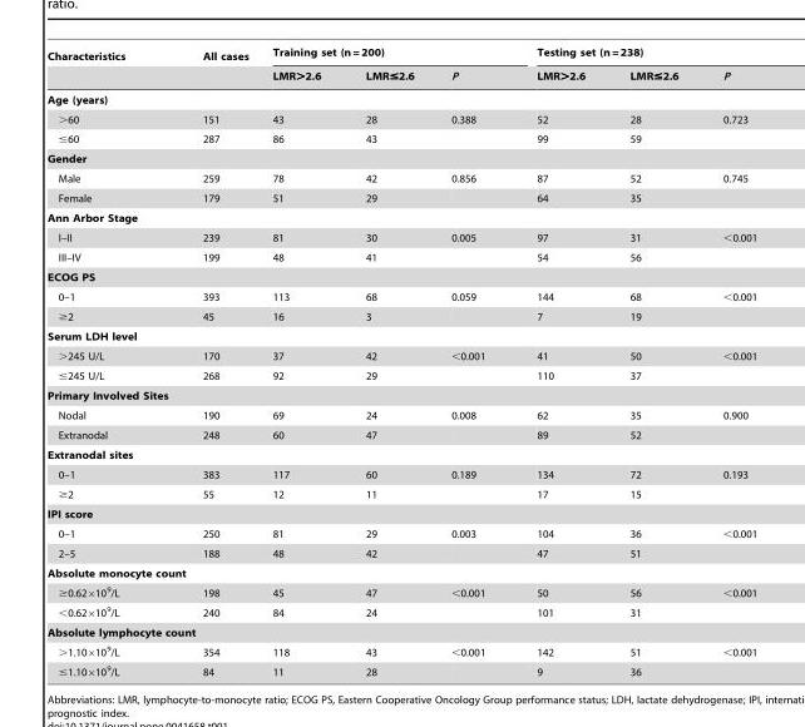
<table><thead><tr><td rowspan="2">Characteristics</td><td rowspan="2">All cases</td><td colspan="3">Training set (n = 200)</td><td colspan="3">Testing set (n = 238)</td></tr><tr><td>LMR&gt;2.6</td><td>LMR≤2.6</td><td>P</td><td>LMR&gt;2.6</td><td>LMR≤2.6</td><td>P</td></tr></thead><tbody><tr><td colspan="8">Age (years)</td></tr><tr><td>&gt;60</td><td>151</td><td>43</td><td>28</td><td>0.388</td><td>52</td><td>28</td><td>0.723</td></tr><tr><td>≤60</td><td>287</td><td>86</td><td>43</td><td></td><td>99</td><td>59</td><td></td></tr><tr><td colspan="8">Gender</td></tr><tr><td>Male</td><td>259</td><td>78</td><td>42</td><td>0.856</td><td>87</td><td>52</td><td>0.745</td></tr><tr><td>Female</td><td>179</td><td>51</td><td>29</td><td></td><td>64</td><td>35</td><td></td></tr><tr><td colspan="8">Ann Arbor Stage</td></tr><tr><td>I–II</td><td>239</td><td>81</td><td>30</td><td>0.005</td><td>97</td><td>31</td><td>&lt;0.001</td></tr><tr><td>III–IV</td><td>199</td><td>48</td><td>41</td><td></td><td>54</td><td>56</td><td></td></tr><tr><td colspan="8">ECOG PS</td></tr><tr><td>0–1</td><td>393</td><td>113</td><td>68</td><td>0.059</td><td>144</td><td>68</td><td>&lt;0.001</td></tr><tr><td>≥2</td><td>45</td><td>16</td><td>3</td><td></td><td>7</td><td>19</td><td></td></tr><tr><td colspan="8">Serum LDH level</td></tr><tr><td>&gt;245 U/L</td><td>170</td><td>37</td><td>42</td><td>&lt;0.001</td><td>41</td><td>50</td><td>&lt;0.001</td></tr><tr><td>≤245 U/L</td><td>268</td><td>92</td><td>29</td><td></td><td>110</td><td>37</td><td></td></tr><tr><td colspan="8">Primary Involved Sites</td></tr><tr><td>Nodal</td><td>190</td><td>69</td><td>24</td><td>0.008</td><td>62</td><td>35</td><td>0.900</td></tr><tr><td>Extranodal</td><td>248</td><td>60</td><td>47</td><td></td><td>89</td><td>52</td><td></td></tr><tr><td colspan="8">Extranodal sites</td></tr><tr><td>0–1</td><td>383</td><td>117</td><td>60</td><td>0.189</td><td>134</td><td>72</td><td>0.193</td></tr><tr><td>≥2</td><td>55</td><td>12</td><td>11</td><td></td><td>17</td><td>15</td><td></td></tr><tr><td colspan="8">IPI score</td></tr><tr><td>0–1</td><td>250</td><td>81</td><td>29</td><td>0.003</td><td>104</td><td>36</td><td>&lt;0.001</td></tr><tr><td>2–5</td><td>188</td><td>48</td><td>42</td><td></td><td>47</td><td>51</td><td></td></tr><tr><td colspan="8">Absolute monocyte count</td></tr><tr><td>≥0.62×10<sup>9</sup>/L</td><td>198</td><td>45</td><td>47</td><td>&lt;0.001</td><td>50</td><td>56</td><td>&lt;0.001</td></tr><tr><td>&lt;0.62×10<sup>9</sup>/L</td><td>240</td><td>84</td><td>24</td><td></td><td>101</td><td>31</td><td></td></tr><tr><td colspan="8">Absolute lymphocyte count</td></tr><tr><td>&gt;1.10×10<sup>9</sup>/L</td><td>354</td><td>118</td><td>43</td><td>&lt;0.001</td><td>142</td><td>51</td><td>&lt;0.001</td></tr><tr><td>≤1.10×10<sup>9</sup>/L</td><td>84</td><td>11</td><td>28</td><td></td><td>9</td><td>36</td><td></td></tr></tbody></table>